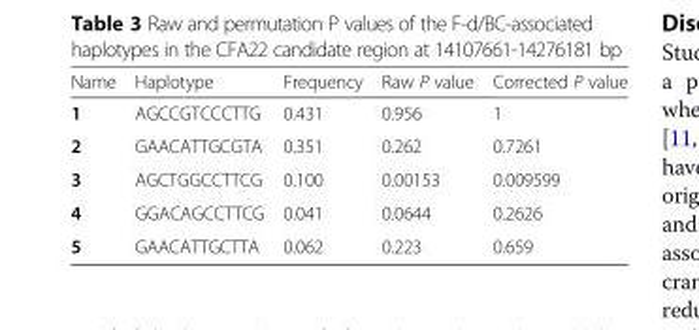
<table><thead><tr><td>Name</td><td>Haplotype</td><td>Frequency</td><td>Raw P value</td><td>Corrected P value</td></tr></thead><tbody><tr><td>1</td><td>AGCCGTCCCTTG</td><td>0.431</td><td>0.956</td><td>1</td></tr><tr><td>2</td><td>GAACATTGCGTA</td><td>0.351</td><td>0.262</td><td>0.7261</td></tr><tr><td>3</td><td>AGCTGGCCTTCG</td><td>0.100</td><td>0.00153</td><td>0.009599</td></tr><tr><td>4</td><td>GGACAGCCTTCG</td><td>0.041</td><td>0.0644</td><td>0.2626</td></tr><tr><td>5</td><td>GAACATTGCTTA</td><td>0.062</td><td>0.223</td><td>0.659</td></tr></tbody></table>